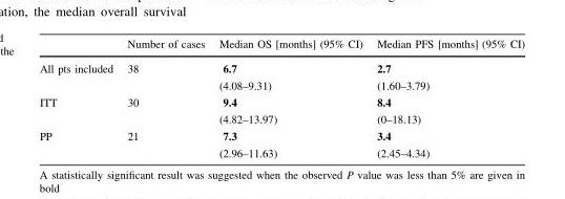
<table><thead><tr><td></td><td>Number of cases</td><td>Median OS [months] (95% CI)</td><td>Median PFS [months] (95% CI)</td></tr></thead><tbody><tr><td rowspan="2">All pts included</td><td rowspan="2">38</td><td>6.7</td><td>2.7</td></tr><tr><td>(4.08–9.31)</td><td>(1.60–3.79)</td></tr><tr><td rowspan="2">ITT</td><td rowspan="2">30</td><td>9.4</td><td>8.4</td></tr><tr><td>(4.82–13.97)</td><td>(0–18.13)</td></tr><tr><td rowspan="2">PP</td><td rowspan="2">21</td><td>7.3</td><td>3.4</td></tr><tr><td>(2.96–11.63)</td><td>(2.45–4.34)</td></tr></tbody></table>